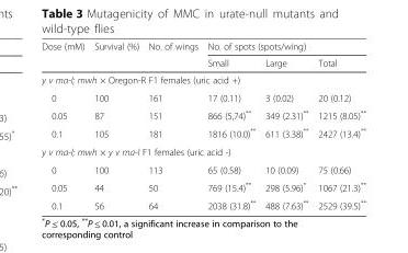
<table><thead><tr><td rowspan="2">Dose (mM)</td><td rowspan="2">Survival (%)</td><td rowspan="2">No. of wings</td><td colspan="3">No. of spots (spots/wing)</td></tr><tr><td>Small</td><td>Large</td><td>Total</td></tr></thead><tbody><tr><td colspan="6">y v ma-l; mwh × Oregon-R F1 females (uric acid +)</td></tr><tr><td>0</td><td>100</td><td>161</td><td>17 (0.11)</td><td>3 (0.02)</td><td>20 (0.12)</td></tr><tr><td>0.05</td><td>87</td><td>151</td><td>866 (5,74)**</td><td>349 (2.31)**</td><td>1215 (8.05)**</td></tr><tr><td>0.1</td><td>105</td><td>181</td><td>1816 (10.0)**</td><td>611 (3.38)**</td><td>2427 (13.4)**</td></tr><tr><td colspan="6">y v ma-l; mwh × y v ma-l F1 females (uric acid -)</td></tr><tr><td>0</td><td>100</td><td>113</td><td>65 (0.58)</td><td>10 (0.09)</td><td>75 (0.66)</td></tr><tr><td>0.05</td><td>44</td><td>50</td><td>769 (15.4)**</td><td>298 (5.96)*</td><td>1067 (21.3)**</td></tr><tr><td>0.1</td><td>56</td><td>64</td><td>2038 (31.8)**</td><td>488 (7.63)**</td><td>2529 (39.5)**</td></tr></tbody></table>